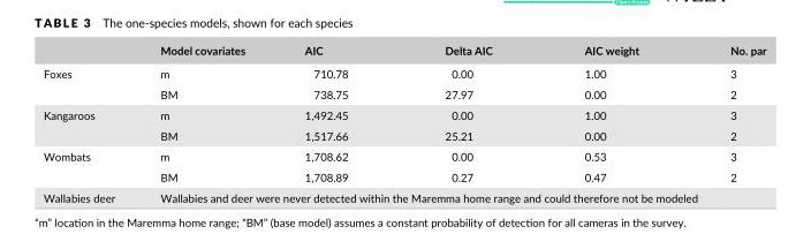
<table><thead><tr><td></td><td>Model covariates</td><td>AIC</td><td>Delta AIC</td><td>AIC weight</td><td>No. par</td></tr></thead><tbody><tr><td rowspan="2">Foxes</td><td>m</td><td>710.78</td><td>0.00</td><td>1.00</td><td>3</td></tr><tr><td>BM</td><td>738.75</td><td>27.97</td><td>0.00</td><td>2</td></tr><tr><td rowspan="2">Kangaroos</td><td>m</td><td>1,492.45</td><td>0.00</td><td>1.00</td><td>3</td></tr><tr><td>BM</td><td>1,517.66</td><td>25.21</td><td>0.00</td><td>2</td></tr><tr><td rowspan="2">Wombats</td><td>m</td><td>1,708.62</td><td>0.00</td><td>0.53</td><td>3</td></tr><tr><td>BM</td><td>1,708.89</td><td>0.27</td><td>0.47</td><td>2</td></tr><tr><td>Wallabies deer</td><td colspan="5">Wallabies and deer were never detected within the Maremma home range and could therefore not be modeled</td></tr></tbody></table>